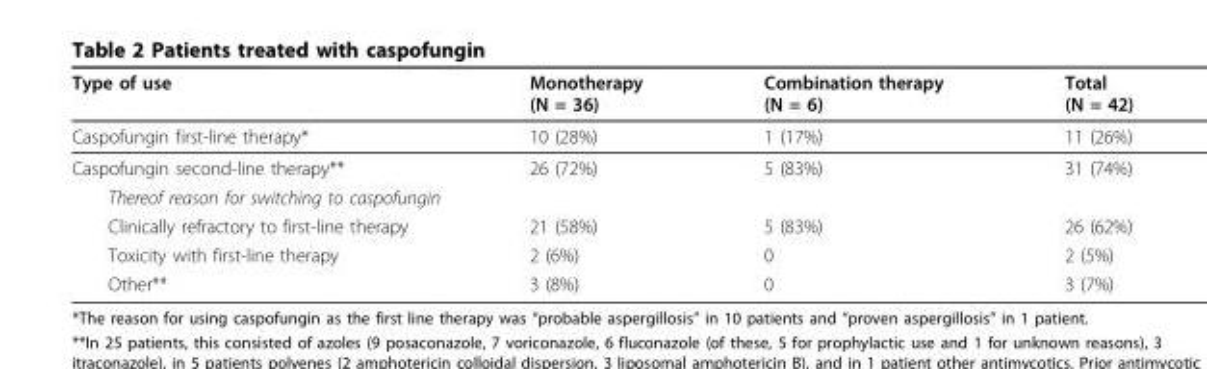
<table><thead><tr><td>Type of use</td><td>Monotherapy (N = 36)</td><td>Combination therapy (N = 6)</td><td>Total (N = 42)</td></tr></thead><tbody><tr><td>Caspofungin first-line therapy*</td><td>10 (28%)</td><td>1 (17%)</td><td>11 (26%)</td></tr><tr><td>Caspofungin second-line therapy**</td><td>26 (72%)</td><td>5 (83%)</td><td>31 (74%)</td></tr><tr><td colspan="4">Thereof reason for switching to caspofungin</td></tr><tr><td>Clinically refractory to first-line therapy</td><td>21 (58%)</td><td>5 (83%)</td><td>26 (62%)</td></tr><tr><td>Toxicity with first-line therapy</td><td>2 (6%)</td><td>0</td><td>2 (5%)</td></tr><tr><td>Other**</td><td>3 (8%)</td><td>0</td><td>3 (7%)</td></tr></tbody></table>